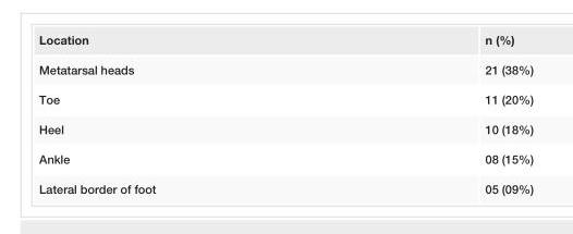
<table><tbody><tr><td>Location</td><td>n (%)</td></tr><tr><td>Metatarsal heads</td><td>21 (38%)</td></tr><tr><td>Toe</td><td>11 (20%)</td></tr><tr><td>Heel</td><td>10 (18%)</td></tr><tr><td>Ankle</td><td>08 (15%)</td></tr><tr><td>Lateral border of foot</td><td>05 (09%)</td></tr></tbody></table>